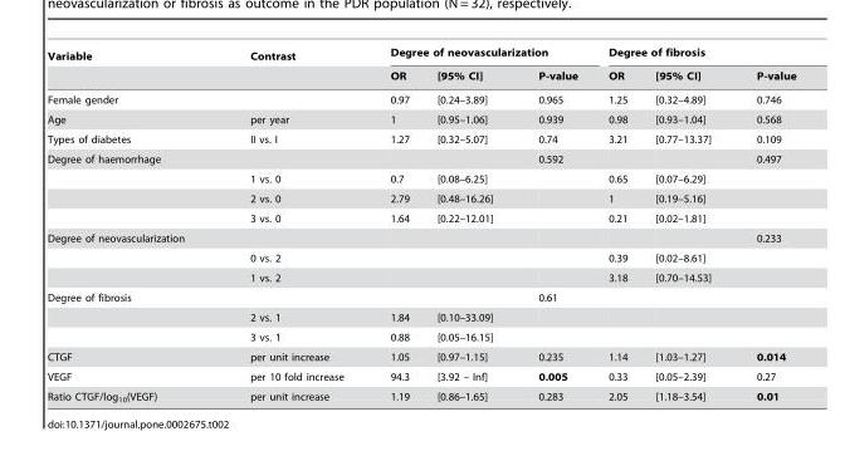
<table><thead><tr><td rowspan="2">Variable</td><td rowspan="2">Contrast</td><td colspan="3">Degree of neovascularization</td><td colspan="3">Degree of fibrosis</td></tr><tr><td>OR</td><td>[95% CI]</td><td>P-value</td><td>OR</td><td>[95% CI]</td><td>P-value</td></tr></thead><tbody><tr><td>Female gender</td><td></td><td>0.97</td><td>[0.24–3.89]</td><td>0.965</td><td>1.25</td><td>[0.32–4.89]</td><td>0.746</td></tr><tr><td>Age</td><td>per year</td><td>1</td><td>[0.95–1.06]</td><td>0.939</td><td>0.98</td><td>[0.93–1.04]</td><td>0.568</td></tr><tr><td>Types of diabetes</td><td>II vs. I</td><td>1.27</td><td>[0.32–5.07]</td><td>0.74</td><td>3.21</td><td>[0.77–13.37]</td><td>0.109</td></tr><tr><td rowspan="4">Degree of haemorrhage</td><td></td><td></td><td></td><td>0.592</td><td></td><td></td><td>0.497</td></tr><tr><td>1 vs. 0</td><td>0.7</td><td>[0.08–6.25]</td><td></td><td>0.65</td><td>[0.07–6.29]</td><td></td></tr><tr><td>2 vs. 0</td><td>2.79</td><td>[0.48–16.26]</td><td></td><td>1</td><td>[0.19–5.16]</td><td></td></tr><tr><td>3 vs. 0</td><td>1.64</td><td>[0.22–12.01]</td><td></td><td>0.21</td><td>[0.02–1.81]</td><td></td></tr><tr><td rowspan="3">Degree of neovascularization</td><td></td><td></td><td></td><td></td><td></td><td></td><td>0.233</td></tr><tr><td>0 vs. 2</td><td></td><td></td><td></td><td>0.39</td><td>[0.02–8.61]</td><td></td></tr><tr><td>1 vs. 2</td><td></td><td></td><td></td><td>3.18</td><td>[0.70–14.53]</td><td></td></tr><tr><td rowspan="3">Degree of fibrosis</td><td></td><td></td><td></td><td>0.61</td><td></td><td></td><td></td></tr><tr><td>2 vs. 1</td><td>1.84</td><td>[0.10–33.09]</td><td></td><td></td><td></td><td></td></tr><tr><td>3 vs. 1</td><td>0.88</td><td>[0.05–16.15]</td><td></td><td></td><td></td><td></td></tr><tr><td>CTGF</td><td>per unit increase</td><td>1.05</td><td>[0.97–1.15]</td><td>0.235</td><td>1.14</td><td>[1.03–1.27]</td><td>0.014</td></tr><tr><td>VEGF</td><td>per 10 fold increase</td><td>94.3</td><td>[3.92 – Inf]</td><td>0.005</td><td>0.33</td><td>[0.05–2.39]</td><td>0.27</td></tr><tr><td>Ratio CTGF/log<sub>10</sub>(VEGF)</td><td>per unit increase</td><td>1.19</td><td>[0.86–1.65]</td><td>0.283</td><td>2.05</td><td>[1.18–3.54]</td><td>0.01</td></tr></tbody></table>